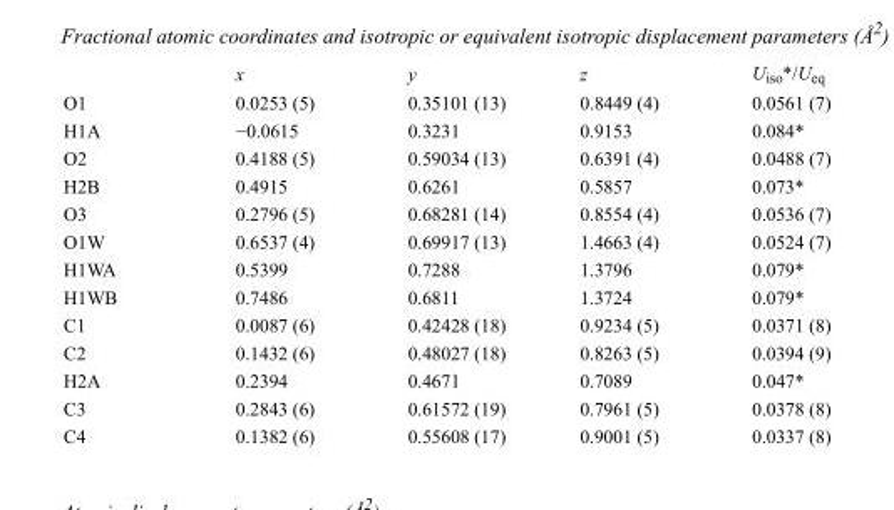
<table><thead><tr><td></td><td>x</td><td>y</td><td>z</td><td>U<sub>iso</sub>*/U<sub>eq</sub></td></tr></thead><tbody><tr><td>O1</td><td>0.0253 (5)</td><td>0.35101 (13)</td><td>0.8449 (4)</td><td>0.0561 (7)</td></tr><tr><td>H1A</td><td>−0.0615</td><td>0.3231</td><td>0.9153</td><td>0.084*</td></tr><tr><td>O2</td><td>0.4188 (5)</td><td>0.59034 (13)</td><td>0.6391 (4)</td><td>0.0488 (7)</td></tr><tr><td>H2B</td><td>0.4915</td><td>0.6261</td><td>0.5857</td><td>0.073*</td></tr><tr><td>O3</td><td>0.2796 (5)</td><td>0.68281 (14)</td><td>0.8554 (4)</td><td>0.0536 (7)</td></tr><tr><td>O1W</td><td>0.6537 (4)</td><td>0.69917 (13)</td><td>1.4663 (4)</td><td>0.0524 (7)</td></tr><tr><td>H1WA</td><td>0.5399</td><td>0.7288</td><td>1.3796</td><td>0.079*</td></tr><tr><td>H1WB</td><td>0.7486</td><td>0.6811</td><td>1.3724</td><td>0.079*</td></tr><tr><td>C1</td><td>0.0087 (6)</td><td>0.42428 (18)</td><td>0.9234 (5)</td><td>0.0371 (8)</td></tr><tr><td>C2</td><td>0.1432 (6)</td><td>0.48027 (18)</td><td>0.8263 (5)</td><td>0.0394 (9)</td></tr><tr><td>H2A</td><td>0.2394</td><td>0.4671</td><td>0.7089</td><td>0.047*</td></tr><tr><td>C3</td><td>0.2843 (6)</td><td>0.61572 (19)</td><td>0.7961 (5)</td><td>0.0378 (8)</td></tr><tr><td>C4</td><td>0.1382 (6)</td><td>0.55608 (17)</td><td>0.9001 (5)</td><td>0.0337 (8)</td></tr></tbody></table>